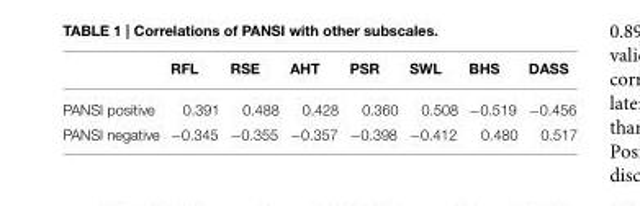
<table><thead><tr><td></td><td>RFL</td><td>RSE</td><td>AHT</td><td>PSR</td><td>SWL</td><td>BHS</td><td>DASS</td></tr></thead><tbody><tr><td>PANSI positive</td><td>0.391</td><td>0.488</td><td>0.428</td><td>0.360</td><td>0.508</td><td>−0.519</td><td>−0.456</td></tr><tr><td>PANSI negative</td><td>−0.345</td><td>−0.355</td><td>−0.357</td><td>−0.398</td><td>−0.412</td><td>0.480</td><td>0.517</td></tr></tbody></table>